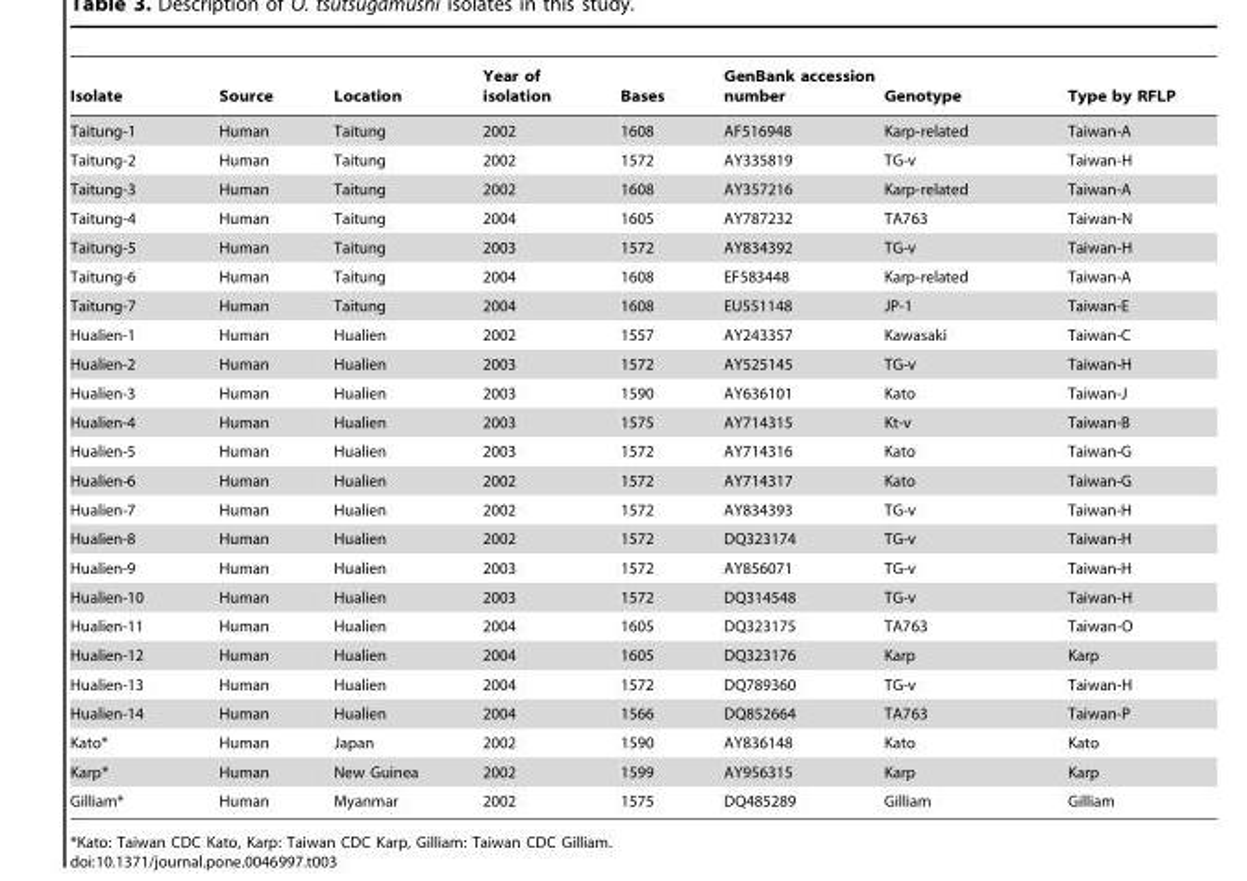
<table><thead><tr><td>Isolate</td><td>Source</td><td>Location</td><td>Year of isolation</td><td>Bases</td><td>GenBank accession number</td><td>Genotype</td><td>Type by RFLP</td></tr></thead><tbody><tr><td>Taitung-1</td><td>Human</td><td>Taitung</td><td>2002</td><td>1608</td><td>AF516948</td><td>Karp-related</td><td>Taiwan-A</td></tr><tr><td>Taitung-2</td><td>Human</td><td>Taitung</td><td>2002</td><td>1572</td><td>AY335819</td><td>TG-v</td><td>Taiwan-H</td></tr><tr><td>Taitung-3</td><td>Human</td><td>Taitung</td><td>2002</td><td>1608</td><td>AY357216</td><td>Karp-related</td><td>Taiwan-A</td></tr><tr><td>Taitung-4</td><td>Human</td><td>Taitung</td><td>2004</td><td>1605</td><td>AY787232</td><td>TA763</td><td>Taiwan-N</td></tr><tr><td>Taitung-5</td><td>Human</td><td>Taitung</td><td>2003</td><td>1572</td><td>AY834392</td><td>TG-v</td><td>Taiwan-H</td></tr><tr><td>Taitung-6</td><td>Human</td><td>Taitung</td><td>2004</td><td>1608</td><td>EF583448</td><td>Karp-related</td><td>Taiwan-A</td></tr><tr><td>Taitung-7</td><td>Human</td><td>Taitung</td><td>2004</td><td>1608</td><td>EU551148</td><td>JP-1</td><td>Taiwan-E</td></tr><tr><td>Hualien-1</td><td>Human</td><td>Hualien</td><td>2002</td><td>1557</td><td>AY243357</td><td>Kawasaki</td><td>Taiwan-C</td></tr><tr><td>Hualien-2</td><td>Human</td><td>Hualien</td><td>2003</td><td>1572</td><td>AY525145</td><td>TG-v</td><td>Taiwan-H</td></tr><tr><td>Hualien-3</td><td>Human</td><td>Hualien</td><td>2003</td><td>1590</td><td>AY636101</td><td>Kato</td><td>Taiwan-J</td></tr><tr><td>Hualien-4</td><td>Human</td><td>Hualien</td><td>2003</td><td>1575</td><td>AY714315</td><td>Kt-v</td><td>Taiwan-B</td></tr><tr><td>Hualien-5</td><td>Human</td><td>Hualien</td><td>2003</td><td>1572</td><td>AY714316</td><td>Kato</td><td>Taiwan-G</td></tr><tr><td>Hualien-6</td><td>Human</td><td>Hualien</td><td>2002</td><td>1572</td><td>AY714317</td><td>Kato</td><td>Taiwan-G</td></tr><tr><td>Hualien-7</td><td>Human</td><td>Hualien</td><td>2002</td><td>1572</td><td>AY834393</td><td>TG-v</td><td>Taiwan-H</td></tr><tr><td>Hualien-8</td><td>Human</td><td>Hualien</td><td>2002</td><td>1572</td><td>DQ323174</td><td>TG-v</td><td>Taiwan-H</td></tr><tr><td>Hualien-9</td><td>Human</td><td>Hualien</td><td>2003</td><td>1572</td><td>AY856071</td><td>TG-v</td><td>Taiwan-H</td></tr><tr><td>Hualien-10</td><td>Human</td><td>Hualien</td><td>2003</td><td>1572</td><td>DQ314548</td><td>TG-v</td><td>Taiwan-H</td></tr><tr><td>Hualien-11</td><td>Human</td><td>Hualien</td><td>2004</td><td>1605</td><td>DQ323175</td><td>TA763</td><td>Taiwan-O</td></tr><tr><td>Hualien-12</td><td>Human</td><td>Hualien</td><td>2004</td><td>1605</td><td>DQ323176</td><td>Karp</td><td>Karp</td></tr><tr><td>Hualien-13</td><td>Human</td><td>Hualien</td><td>2004</td><td>1572</td><td>DQ789360</td><td>TG-v</td><td>Taiwan-H</td></tr><tr><td>Hualien-14</td><td>Human</td><td>Hualien</td><td>2004</td><td>1566</td><td>DQ852664</td><td>TA763</td><td>Taiwan-P</td></tr><tr><td>Kato*</td><td>Human</td><td>Japan</td><td>2002</td><td>1590</td><td>AY836148</td><td>Kato</td><td>Kato</td></tr><tr><td>Karp*</td><td>Human</td><td>New Guinea</td><td>2002</td><td>1599</td><td>AY956315</td><td>Karp</td><td>Karp</td></tr><tr><td>Gilliam*</td><td>Human</td><td>Myanmar</td><td>2002</td><td>1575</td><td>DQ485289</td><td>Gilliam</td><td>Gilliam</td></tr></tbody></table>